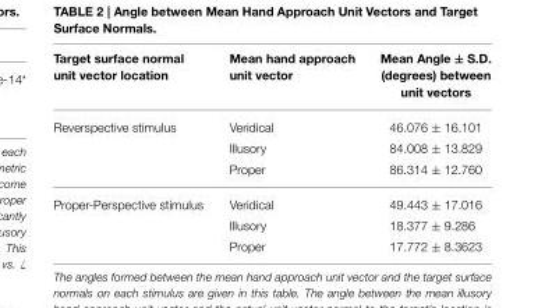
<table><thead><tr><td>Target surface normal unit vector location</td><td>Mean hand approach unit vector</td><td>Mean Angle ± S.D. (degrees) between unit vectors</td></tr></thead><tbody><tr><td rowspan="3">Reverspective stimulus</td><td>Veridical</td><td>46.076 ± 16.101</td></tr><tr><td>Illusory</td><td>84.008 ± 13.829</td></tr><tr><td>Proper</td><td>86.314 ± 12.760</td></tr><tr><td rowspan="3">Proper-Perspective stimulus</td><td>Veridical</td><td>49.443 ± 17.016</td></tr><tr><td>Illusory</td><td>18.377 ± 9.286</td></tr><tr><td>Proper</td><td>17.772 ± 8.3623</td></tr></tbody></table>